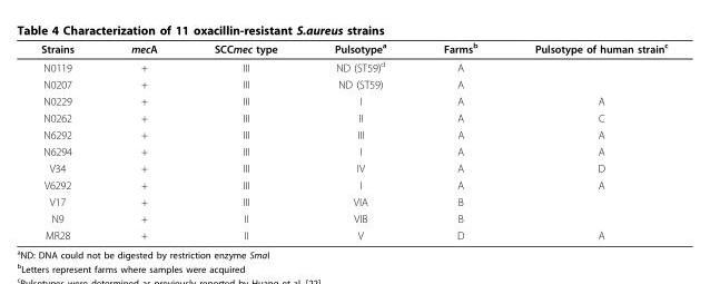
<table><thead><tr><td>Strains</td><td>mecA</td><td>SCCmec type</td><td>Pulsotype<sup>a</sup></td><td>Farms<sup>b</sup></td><td>Pulsotype of human strain<sup>c</sup></td></tr></thead><tbody><tr><td>N0119</td><td>+</td><td>III</td><td>ND (ST59)<sup>d</sup></td><td>A</td><td></td></tr><tr><td>N0207</td><td>+</td><td>III</td><td>ND (ST59)</td><td>A</td><td></td></tr><tr><td>N0229</td><td>+</td><td>III</td><td>I</td><td>A</td><td>A</td></tr><tr><td>N0262</td><td>+</td><td>III</td><td>II</td><td>A</td><td>C</td></tr><tr><td>N6292</td><td>+</td><td>III</td><td>III</td><td>A</td><td>A</td></tr><tr><td>N6294</td><td>+</td><td>III</td><td>I</td><td>A</td><td>A</td></tr><tr><td>V34</td><td>+</td><td>III</td><td>IV</td><td>A</td><td>D</td></tr><tr><td>V6292</td><td>+</td><td>III</td><td>I</td><td>A</td><td>A</td></tr><tr><td>V17</td><td>+</td><td>III</td><td>VIA</td><td>B</td><td></td></tr><tr><td>N9</td><td>+</td><td>II</td><td>VIB</td><td>B</td><td></td></tr><tr><td>MR28</td><td>+</td><td>II</td><td>V</td><td>D</td><td>A</td></tr></tbody></table>